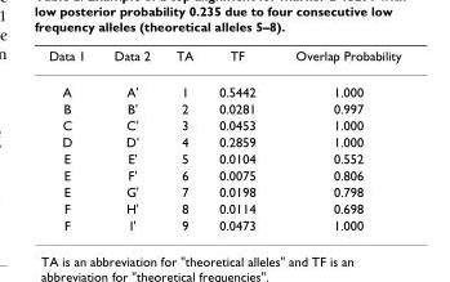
<table><thead><tr><td>Data 1</td><td>Data 2</td><td>TA</td><td>TF</td><td>Overlap Probability</td></tr></thead><tbody><tr><td>A</td><td>A&#x27;</td><td>1</td><td>0.5442</td><td>1.000</td></tr><tr><td>B</td><td>B&#x27;</td><td>2</td><td>0.0281</td><td>0.997</td></tr><tr><td>C</td><td>C&#x27;</td><td>3</td><td>0.0453</td><td>1.000</td></tr><tr><td>D</td><td>D&#x27;</td><td>4</td><td>0.2859</td><td>1.000</td></tr><tr><td>E</td><td>E&#x27;</td><td>5</td><td>0.0104</td><td>0.552</td></tr><tr><td>E</td><td>F&#x27;</td><td>6</td><td>0.0075</td><td>0.806</td></tr><tr><td>E</td><td>G&#x27;</td><td>7</td><td>0.0198</td><td>0.798</td></tr><tr><td>F</td><td>H&#x27;</td><td>8</td><td>0.0114</td><td>0.698</td></tr><tr><td>F</td><td>I&#x27;</td><td>9</td><td>0.0473</td><td>1.000</td></tr></tbody></table>